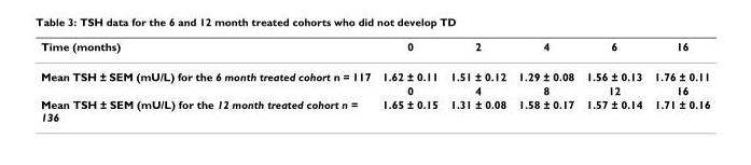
<table><thead><tr><td>Time (months)</td><td>0</td><td>2</td><td>4</td><td>6</td><td>16</td></tr></thead><tbody><tr><td rowspan="2">Mean TSH ± SEM (mU/L) for the 6 month treated cohort n = 117</td><td>1.62 ± 0.11</td><td>1.51 ± 0.12</td><td>1.29 ± 0.08</td><td>1.56 ± 0.13</td><td>1.76 ± 0.11</td></tr><tr><td>0</td><td>4</td><td>8</td><td>12</td><td>16</td></tr><tr><td>Mean TSH ± SEM (mU/L) for the 12 month treated cohort n = 136</td><td>1.65 ± 0.15</td><td>1.31 ± 0.08</td><td>1.58 ± 0.17</td><td>1.57 ± 0.14</td><td>1.71 ± 0.16</td></tr></tbody></table>